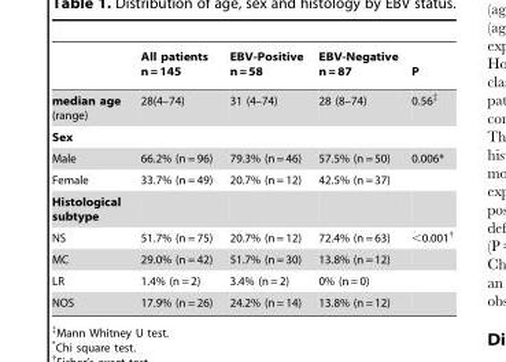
<table><thead><tr><td></td><td>All patients n = 145</td><td>EBV-Positive n = 58</td><td>EBV-Negative n = 87</td><td>P</td></tr></thead><tbody><tr><td>median age (range)</td><td>28(4–74)</td><td>31 (4–74)</td><td>28 (8–74)</td><td>0.56‡</td></tr><tr><td colspan="5">Sex</td></tr><tr><td>Male</td><td>66.2% (n = 96)</td><td>79.3% (n = 46)</td><td>57.5% (n = 50)</td><td>0.006*</td></tr><tr><td>Female</td><td>33.7% (n = 49)</td><td>20.7% (n = 12)</td><td>42.5% (n = 37)</td><td></td></tr><tr><td colspan="5">Histological subtype</td></tr><tr><td>NS</td><td>51.7% (n = 75)</td><td>20.7% (n = 12)</td><td>72.4% (n = 63)</td><td>&lt;0.001†</td></tr><tr><td>MC</td><td>29.0% (n = 42)</td><td>51.7% (n = 30)</td><td>13.8% (n = 12)</td><td></td></tr><tr><td>LR</td><td>1.4% (n = 2)</td><td>3.4% (n = 2)</td><td>0% (n = 0)</td><td></td></tr><tr><td>NOS</td><td>17.9% (n = 26)</td><td>24.2% (n = 14)</td><td>13.8% (n = 12)</td><td></td></tr></tbody></table>